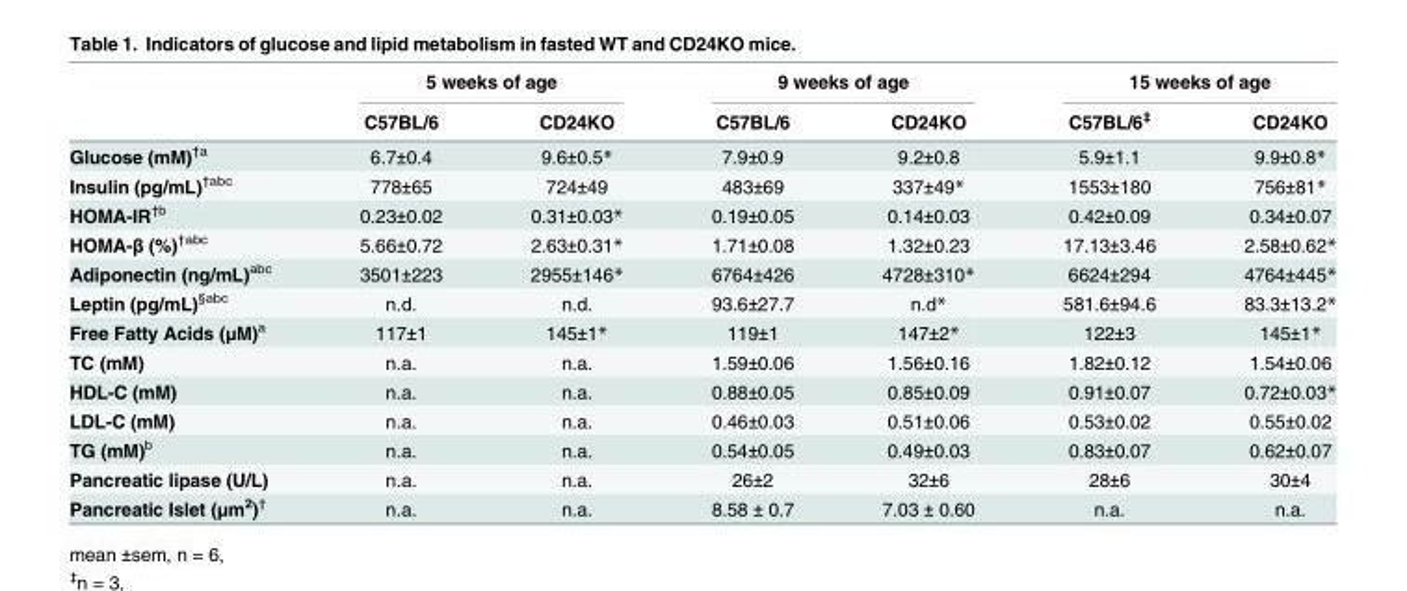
<table><thead><tr><td rowspan="2"></td><td colspan="2">5 weeks of age</td><td colspan="2">9 weeks of age</td><td colspan="2">15 weeks of age</td></tr><tr><td>C57BL/6</td><td>CD24KO</td><td>C57BL/6</td><td>CD24KO</td><td>C57BL/6<sup>‡</sup></td><td>CD24KO</td></tr></thead><tbody><tr><td>Glucose (mM)<sup>†a</sup></td><td>6.7±0.4</td><td>9.6±0.5*</td><td>7.9±0.9</td><td>9.2±0.8</td><td>5.9±1.1</td><td>9.9±0.8*</td></tr><tr><td>Insulin (pg/mL)<sup>†abc</sup></td><td>778±65</td><td>724±49</td><td>483±69</td><td>337±49*</td><td>1553±180</td><td>756±81*</td></tr><tr><td>HOMA-IR<sup>†b</sup></td><td>0.23±0.02</td><td>0.31±0.03*</td><td>0.19±0.05</td><td>0.14±0.03</td><td>0.42±0.09</td><td>0.34±0.07</td></tr><tr><td>HOMA-β (%)<sup>†abc</sup></td><td>5.66±0.72</td><td>2.63±0.31*</td><td>1.71±0.08</td><td>1.32±0.23</td><td>17.13±3.46</td><td>2.58±0.62*</td></tr><tr><td>Adiponectin (ng/mL)<sup>abc</sup></td><td>3501±223</td><td>2955±146*</td><td>6764±426</td><td>4728±310*</td><td>6624±294</td><td>4764±445*</td></tr><tr><td>Leptin (pg/mL)<sup>§abc</sup></td><td>n.d.</td><td>n.d.</td><td>93.6±27.7</td><td>n.d*</td><td>581.6±94.6</td><td>83.3±13.2*</td></tr><tr><td>Free Fatty Acids (μM)<sup>a</sup></td><td>117±1</td><td>145±1*</td><td>119±1</td><td>147±2*</td><td>122±3</td><td>145±1*</td></tr><tr><td>TC (mM)</td><td>n.a.</td><td>n.a.</td><td>1.59±0.06</td><td>1.56±0.16</td><td>1.82±0.12</td><td>1.54±0.06</td></tr><tr><td>HDL-C (mM)</td><td>n.a.</td><td>n.a.</td><td>0.88±0.05</td><td>0.85±0.09</td><td>0.91±0.07</td><td>0.72±0.03*</td></tr><tr><td>LDL-C (mM)</td><td>n.a.</td><td>n.a.</td><td>0.46±0.03</td><td>0.51±0.06</td><td>0.53±0.02</td><td>0.55±0.02</td></tr><tr><td>TG (mM)<sup>b</sup></td><td>n.a.</td><td>n.a.</td><td>0.54±0.05</td><td>0.49±0.03</td><td>0.83±0.07</td><td>0.62±0.07</td></tr><tr><td>Pancreatic lipase (U/L)</td><td>n.a.</td><td>n.a.</td><td>26±2</td><td>32±6</td><td>28±6</td><td>30±4</td></tr><tr><td>Pancreatic Islet (μm<sup>2</sup>)<sup>†</sup></td><td>n.a.</td><td>n.a.</td><td>8.58 ± 0.7</td><td>7.03 ± 0.60</td><td>n.a.</td><td>n.a.</td></tr></tbody></table>